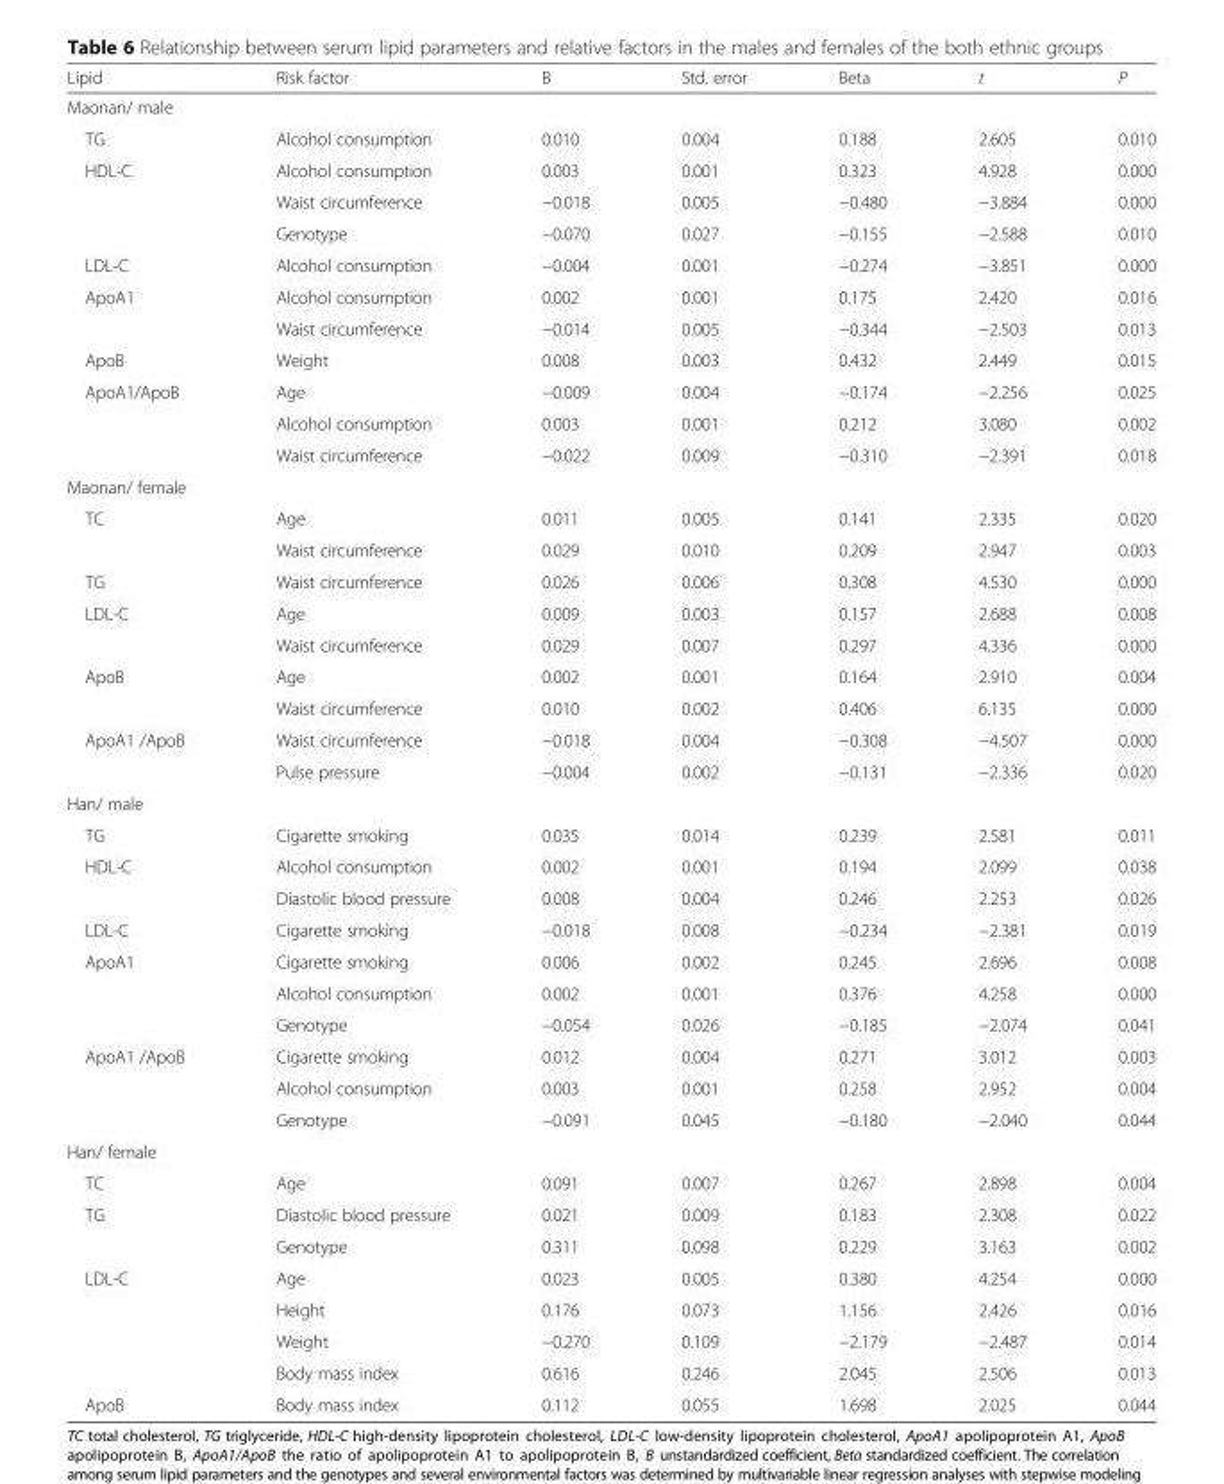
<table><thead><tr><td>Lipid</td><td>Risk factor</td><td>B</td><td>Std. error</td><td>Beta</td><td>t</td><td>P</td></tr></thead><tbody><tr><td colspan="7">Maonan/ male</td></tr><tr><td>TG</td><td>Alcohol consumption</td><td>0.010</td><td>0.004</td><td>0.188</td><td>2.605</td><td>0.010</td></tr><tr><td rowspan="3">HDL-C</td><td>Alcohol consumption</td><td>0.003</td><td>0.001</td><td>0.323</td><td>4.928</td><td>0.000</td></tr><tr><td>Waist circumference</td><td>−0.018</td><td>0.005</td><td>−0.480</td><td>−3.884</td><td>0.000</td></tr><tr><td>Genotype</td><td>−0.070</td><td>0.027</td><td>−0.155</td><td>−2.588</td><td>0.010</td></tr><tr><td>LDL-C</td><td>Alcohol consumption</td><td>−0.004</td><td>0.001</td><td>−0.274</td><td>−3.851</td><td>0.000</td></tr><tr><td rowspan="2">ApoA1</td><td>Alcohol consumption</td><td>0.002</td><td>0.001</td><td>0.175</td><td>2.420</td><td>0.016</td></tr><tr><td>Waist circumference</td><td>−0.014</td><td>0.005</td><td>−0.344</td><td>−2.503</td><td>0.013</td></tr><tr><td>ApoB</td><td>Weight</td><td>0.008</td><td>0.003</td><td>0.432</td><td>2.449</td><td>0.015</td></tr><tr><td rowspan="3">ApoA1/ApoB</td><td>Age</td><td>−0.009</td><td>0.004</td><td>−0.174</td><td>−2.256</td><td>0.025</td></tr><tr><td>Alcohol consumption</td><td>0.003</td><td>0.001</td><td>0.212</td><td>3.080</td><td>0.002</td></tr><tr><td>Waist circumference</td><td>−0.022</td><td>0.009</td><td>−0.310</td><td>−2.391</td><td>0.018</td></tr><tr><td colspan="7">Maonan/ female</td></tr><tr><td rowspan="2">TC</td><td>Age</td><td>0.011</td><td>0.005</td><td>0.141</td><td>2.335</td><td>0.020</td></tr><tr><td>Waist circumference</td><td>0.029</td><td>0.010</td><td>0.209</td><td>2.947</td><td>0.003</td></tr><tr><td>TG</td><td>Waist circumference</td><td>0.026</td><td>0.006</td><td>0.308</td><td>4.530</td><td>0.000</td></tr><tr><td rowspan="2">LDL-C</td><td>Age</td><td>0.009</td><td>0.003</td><td>0.157</td><td>2.688</td><td>0.008</td></tr><tr><td>Waist circumference</td><td>0.029</td><td>0.007</td><td>0.297</td><td>4.336</td><td>0.000</td></tr><tr><td rowspan="2">ApoB</td><td>Age</td><td>0.002</td><td>0.001</td><td>0.164</td><td>2.910</td><td>0.004</td></tr><tr><td>Waist circumference</td><td>0.010</td><td>0.002</td><td>0.406</td><td>6.135</td><td>0.000</td></tr><tr><td rowspan="2">ApoA1 /ApoB</td><td>Waist circumference</td><td>−0.018</td><td>0.004</td><td>−0.308</td><td>−4.507</td><td>0.000</td></tr><tr><td>Pulse pressure</td><td>−0.004</td><td>0.002</td><td>−0.131</td><td>−2.336</td><td>0.020</td></tr><tr><td colspan="7">Han/ male</td></tr><tr><td>TG</td><td>Cigarette smoking</td><td>0.035</td><td>0.014</td><td>0.239</td><td>2.581</td><td>0.011</td></tr><tr><td rowspan="2">HDL-C</td><td>Alcohol consumption</td><td>0.002</td><td>0.001</td><td>0.194</td><td>2.099</td><td>0.038</td></tr><tr><td>Diastolic blood pressure</td><td>0.008</td><td>0.004</td><td>0.246</td><td>2.253</td><td>0.026</td></tr><tr><td>LDL-C</td><td>Cigarette smoking</td><td>−0.018</td><td>0.008</td><td>−0.234</td><td>−2.381</td><td>0.019</td></tr><tr><td rowspan="3">ApoA1</td><td>Cigarette smoking</td><td>0.006</td><td>0.002</td><td>0.245</td><td>2.696</td><td>0.008</td></tr><tr><td>Alcohol consumption</td><td>0.002</td><td>0.001</td><td>0.376</td><td>4.258</td><td>0.000</td></tr><tr><td>Genotype</td><td>−0.054</td><td>0.026</td><td>−0.185</td><td>−2.074</td><td>0.041</td></tr><tr><td rowspan="3">ApoA1 /ApoB</td><td>Cigarette smoking</td><td>0.012</td><td>0.004</td><td>0.271</td><td>3.012</td><td>0.003</td></tr><tr><td>Alcohol consumption</td><td>0.003</td><td>0.001</td><td>0.258</td><td>2.952</td><td>0.004</td></tr><tr><td>Genotype</td><td>−0.091</td><td>0.045</td><td>−0.180</td><td>−2.040</td><td>0.044</td></tr><tr><td colspan="7">Han/ female</td></tr><tr><td>TC</td><td>Age</td><td>0.091</td><td>0.007</td><td>0.267</td><td>2.898</td><td>0.004</td></tr><tr><td rowspan="2">TG</td><td>Diastolic blood pressure</td><td>0.021</td><td>0.009</td><td>0.183</td><td>2.308</td><td>0.022</td></tr><tr><td>Genotype</td><td>0.311</td><td>0.098</td><td>0.229</td><td>3.163</td><td>0.002</td></tr><tr><td rowspan="4">LDL-C</td><td>Age</td><td>0.023</td><td>0.005</td><td>0.380</td><td>4.254</td><td>0.000</td></tr><tr><td>Height</td><td>0.176</td><td>0.073</td><td>1.156</td><td>2.426</td><td>0.016</td></tr><tr><td>Weight</td><td>−0.270</td><td>0.109</td><td>−2.179</td><td>−2.487</td><td>0.014</td></tr><tr><td>Body mass index</td><td>0.616</td><td>0.246</td><td>2.045</td><td>2.506</td><td>0.013</td></tr><tr><td>ApoB</td><td>Body mass index</td><td>0.112</td><td>0.055</td><td>1.698</td><td>2.025</td><td>0.044</td></tr></tbody></table>